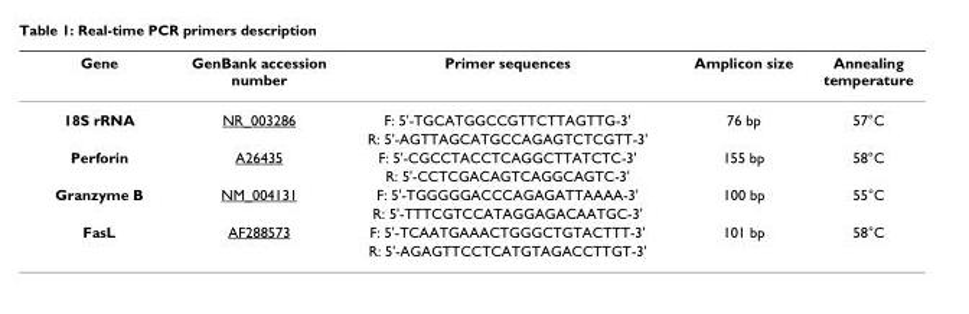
<table><thead><tr><td>Gene</td><td>GenBank accession number</td><td>Primer sequences</td><td>Amplicon size</td><td>Annealing temperature</td></tr></thead><tbody><tr><td rowspan="2">18S rRNA</td><td>NR_003286</td><td>F: 5&#x27;-TGCATGGCCGTTCTTAGTTG-3&#x27;</td><td>76 bp</td><td>57°C</td></tr><tr><td></td><td>R: 5&#x27;-AGTTAGCATGCCAGAGTCTCGTT-3&#x27;</td><td></td><td></td></tr><tr><td rowspan="2">Perforin</td><td>A26435</td><td>F: 5&#x27;-CGCCTACCTCAGGCTTATCTC-3&#x27;</td><td>155 bp</td><td>58°C</td></tr><tr><td></td><td>R: 5&#x27;-CCTCGACAGTCAGGCAGTC-3&#x27;</td><td></td><td></td></tr><tr><td rowspan="2">Granzyme B</td><td>NM_004131</td><td>F: 5&#x27;-TGGGGGACCCAGAGATTAAAA-3&#x27;</td><td>100 bp</td><td>55°C</td></tr><tr><td></td><td>R: 5&#x27;-TTTCGTCCATAGGAGACAATGC-3&#x27;</td><td></td><td></td></tr><tr><td rowspan="2">FasL</td><td>AF288573</td><td>F: 5&#x27;-TCAATGAAACTGGGCTGTACTTT-3&#x27;</td><td>101 bp</td><td>58°C</td></tr><tr><td></td><td>R: 5&#x27;-AGAGTTCCTCATGTAGACCTTGT-3&#x27;</td><td></td><td></td></tr></tbody></table>